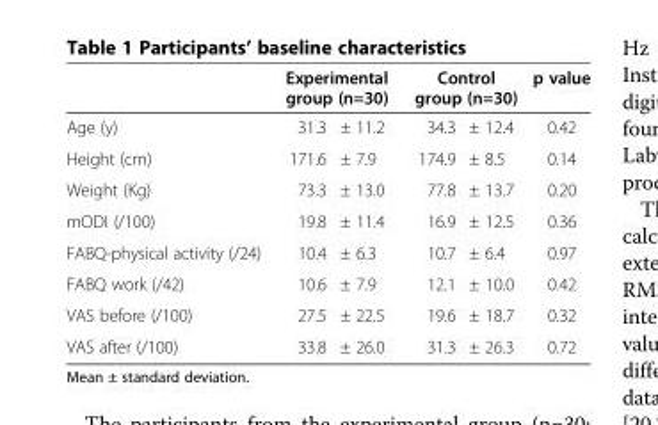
<table><thead><tr><td rowspan="2">Age (y)</td><td colspan="2">Experimental group (n=30)</td><td colspan="2">Control group (n=30)</td><td rowspan="2">p value 0.42</td></tr><tr><td>31.3</td><td>± 11.2</td><td>34.3</td><td>± 12.4</td></tr></thead><tbody><tr><td>Height (cm)</td><td>171.6</td><td>± 7.9</td><td>174.9</td><td>± 8.5</td><td>0.14</td></tr><tr><td>Weight (Kg)</td><td>73.3</td><td>± 13.0</td><td>77.8</td><td>± 13.7</td><td>0.20</td></tr><tr><td>mODI (/100)</td><td>19.8</td><td>± 11.4</td><td>16.9</td><td>± 12.5</td><td>0.36</td></tr><tr><td>FABQ-physical activity (/24)</td><td>10.4</td><td>± 6.3</td><td>10.7</td><td>± 6.4</td><td>0.97</td></tr><tr><td>FABQ work (/42)</td><td>10.6</td><td>± 7.9</td><td>12.1</td><td>± 10.0</td><td>0.42</td></tr><tr><td>VAS before (/100)</td><td>27.5</td><td>± 22.5</td><td>19.6</td><td>± 18.7</td><td>0.32</td></tr><tr><td>VAS after (/100)</td><td>33.8</td><td>± 26.0</td><td>31.3</td><td>± 26.3</td><td>0.72</td></tr></tbody></table>